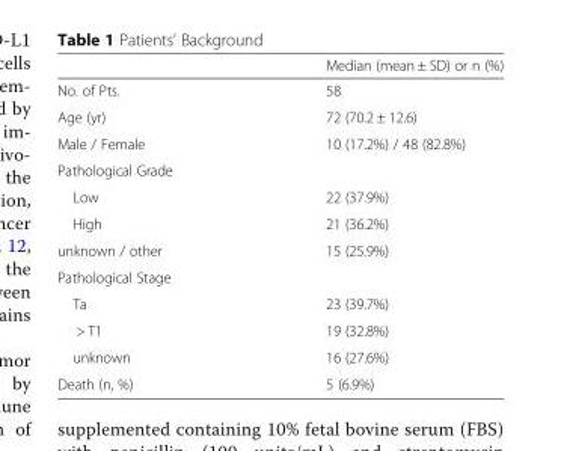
<table><thead><tr><td></td><td>Median (mean ± SD) or n (%)</td></tr></thead><tbody><tr><td>No. of Pts.</td><td>58</td></tr><tr><td>Age (yr)</td><td>72 (70.2 ± 12.6)</td></tr><tr><td>Male / Female</td><td>10 (17.2%) / 48 (82.8%)</td></tr><tr><td colspan="2">Pathological Grade</td></tr><tr><td>Low</td><td>22 (37.9%)</td></tr><tr><td>High</td><td>21 (36.2%)</td></tr><tr><td>unknown / other</td><td>15 (25.9%)</td></tr><tr><td colspan="2">Pathological Stage</td></tr><tr><td>Ta</td><td>23 (39.7%)</td></tr><tr><td>&gt; T1</td><td>19 (32.8%)</td></tr><tr><td>unknown</td><td>16 (27.6%)</td></tr><tr><td>Death (n, %)</td><td>5 (6.9%)</td></tr></tbody></table>